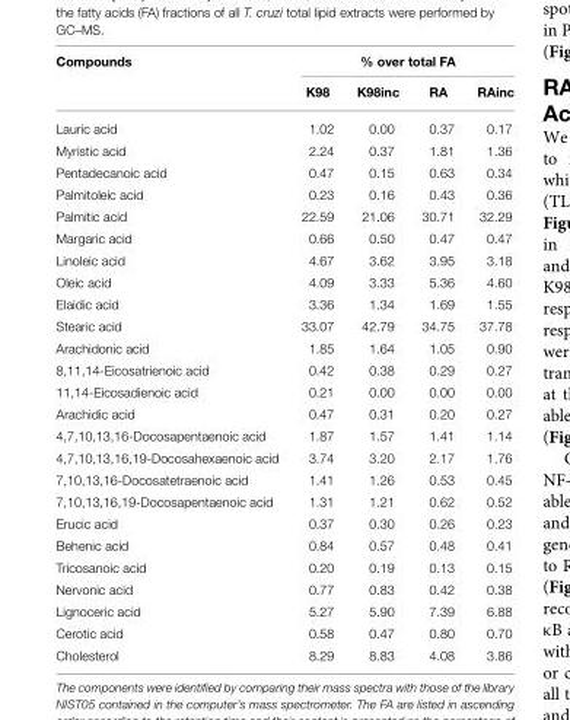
<table><thead><tr><td rowspan="2">Compounds</td><td colspan="4">% over total FA</td></tr><tr><td>K98</td><td>K98inc</td><td>RA</td><td>RAinc</td></tr></thead><tbody><tr><td>Lauric acid</td><td>1.02</td><td>0.00</td><td>0.37</td><td>0.17</td></tr><tr><td>Myristic acid</td><td>2.24</td><td>0.37</td><td>1.81</td><td>1.36</td></tr><tr><td>Pentadecanoic acid</td><td>0.47</td><td>0.15</td><td>0.63</td><td>0.34</td></tr><tr><td>Palmitoleic acid</td><td>0.23</td><td>0.16</td><td>0.43</td><td>0.36</td></tr><tr><td>Palmitic acid</td><td>22.59</td><td>21.06</td><td>30.71</td><td>32.29</td></tr><tr><td>Margaric acid</td><td>0.66</td><td>0.50</td><td>0.47</td><td>0.47</td></tr><tr><td>Linoleic acid</td><td>4.67</td><td>3.62</td><td>3.95</td><td>3.18</td></tr><tr><td>Oleic acid</td><td>4.09</td><td>3.33</td><td>5.36</td><td>4.60</td></tr><tr><td>Elaidic acid</td><td>3.36</td><td>1.34</td><td>1.69</td><td>1.55</td></tr><tr><td>Stearic acid</td><td>33.07</td><td>42.79</td><td>34.75</td><td>37.78</td></tr><tr><td>Arachidonic acid</td><td>1.85</td><td>1.64</td><td>1.05</td><td>0.90</td></tr><tr><td>8,11,14-Eicosatrienoic acid</td><td>0.42</td><td>0.38</td><td>0.29</td><td>0.27</td></tr><tr><td>11,14-Eicosadienoic acid</td><td>0.21</td><td>0.00</td><td>0.00</td><td>0.00</td></tr><tr><td>Arachidic acid</td><td>0.47</td><td>0.31</td><td>0.20</td><td>0.27</td></tr><tr><td>4,7,10,13,16-Docosapentaenoic acid</td><td>1.87</td><td>1.57</td><td>1.41</td><td>1.14</td></tr><tr><td>4,7,10,13,16,19-Docosahexaenoic acid</td><td>3.74</td><td>3.20</td><td>2.17</td><td>1.76</td></tr><tr><td>7,10,13,16-Docosatetraenoic acid</td><td>1.41</td><td>1.26</td><td>0.53</td><td>0.45</td></tr><tr><td>7,10,13,16,19-Docosapentaenoic acid</td><td>1.31</td><td>1.21</td><td>0.62</td><td>0.52</td></tr><tr><td>Erucic acid</td><td>0.37</td><td>0.30</td><td>0.26</td><td>0.23</td></tr><tr><td>Behenic acid</td><td>0.84</td><td>0.57</td><td>0.48</td><td>0.41</td></tr><tr><td>Tricosanoic acid</td><td>0.20</td><td>0.19</td><td>0.13</td><td>0.15</td></tr><tr><td>Nervonic acid</td><td>0.77</td><td>0.83</td><td>0.42</td><td>0.38</td></tr><tr><td>Lignoceric acid</td><td>5.27</td><td>5.90</td><td>7.39</td><td>6.88</td></tr><tr><td>Cerotic acid</td><td>0.58</td><td>0.47</td><td>0.80</td><td>0.70</td></tr><tr><td>Cholesterol</td><td>8.29</td><td>8.83</td><td>4.08</td><td>3.86</td></tr></tbody></table>